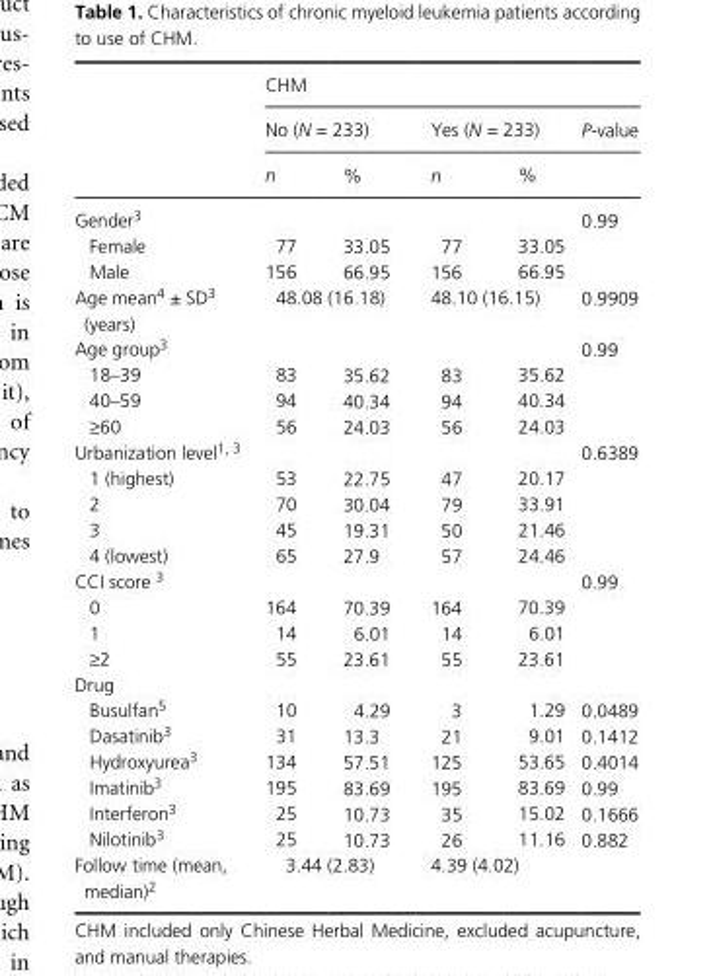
<table><thead><tr><td rowspan="3"></td><td colspan="5">CHM</td></tr><tr><td colspan="2">No (N = 233)</td><td colspan="2">Yes (N = 233)</td><td rowspan="2">P- value</td></tr><tr><td>n</td><td>%</td><td>n</td><td>%</td></tr></thead><tbody><tr><td>Gender<sup>3</sup></td><td></td><td></td><td></td><td></td><td>0.99</td></tr><tr><td>Female</td><td>77</td><td>33.05</td><td>77</td><td>33.05</td><td></td></tr><tr><td>Male</td><td>156</td><td>66.95</td><td>156</td><td>66.95</td><td></td></tr><tr><td>Age mean<sup>4</sup> ± SD<sup>3</sup> (years)</td><td colspan="2">48.08 (16.18)</td><td colspan="2">48.10 (16.15)</td><td>0.9909</td></tr><tr><td>Age group<sup>3</sup></td><td></td><td></td><td></td><td></td><td>0.99</td></tr><tr><td>18–39</td><td>83</td><td>35.62</td><td>83</td><td>35.62</td><td></td></tr><tr><td>40–59</td><td>94</td><td>40.34</td><td>94</td><td>40.34</td><td></td></tr><tr><td>≥60</td><td>56</td><td>24.03</td><td>56</td><td>24.03</td><td></td></tr><tr><td>Urbanization level<sup>1</sup>, <sup>3</sup></td><td></td><td></td><td></td><td></td><td>0.6389</td></tr><tr><td>1 (highest)</td><td>53</td><td>22.75</td><td>47</td><td>20.17</td><td></td></tr><tr><td>2</td><td>70</td><td>30.04</td><td>79</td><td>33.91</td><td></td></tr><tr><td>3</td><td>45</td><td>19.31</td><td>50</td><td>21.46</td><td></td></tr><tr><td>4 (lowest)</td><td>65</td><td>27.9</td><td>57</td><td>24.46</td><td></td></tr><tr><td>CCI score 3</td><td></td><td></td><td></td><td></td><td>0.99</td></tr><tr><td>0</td><td>164</td><td>70.39</td><td>164</td><td>70.39</td><td></td></tr><tr><td>1</td><td>14</td><td>6.01</td><td>14</td><td>6.01</td><td></td></tr><tr><td>≥2</td><td>55</td><td>23.61</td><td>55</td><td>23.61</td><td></td></tr><tr><td colspan="6">Drug</td></tr><tr><td>Busulfan<sup>5</sup></td><td>10</td><td>4.29</td><td>3</td><td>1.29</td><td>0.0489</td></tr><tr><td>Dasatinib<sup>3</sup></td><td>31</td><td>13.3</td><td>21</td><td>9.01</td><td>0.1412</td></tr><tr><td>Hydroxyurea<sup>3</sup></td><td>134</td><td>57.51</td><td>125</td><td>53.65</td><td>0.4014</td></tr><tr><td>Imatinib<sup>3</sup></td><td>195</td><td>83.69</td><td>195</td><td>83.69</td><td>0.99</td></tr><tr><td>Interferon<sup>3</sup></td><td>25</td><td>10.73</td><td>35</td><td>15.02</td><td>0.1666</td></tr><tr><td>Nilotinib<sup>3</sup></td><td>25</td><td>10.73</td><td>26</td><td>11.16</td><td>0.882</td></tr><tr><td>Follow time (mean, median)<sup>2</sup></td><td colspan="2">3.44 (2.83)</td><td colspan="2">4.39 (4.02)</td><td></td></tr></tbody></table>